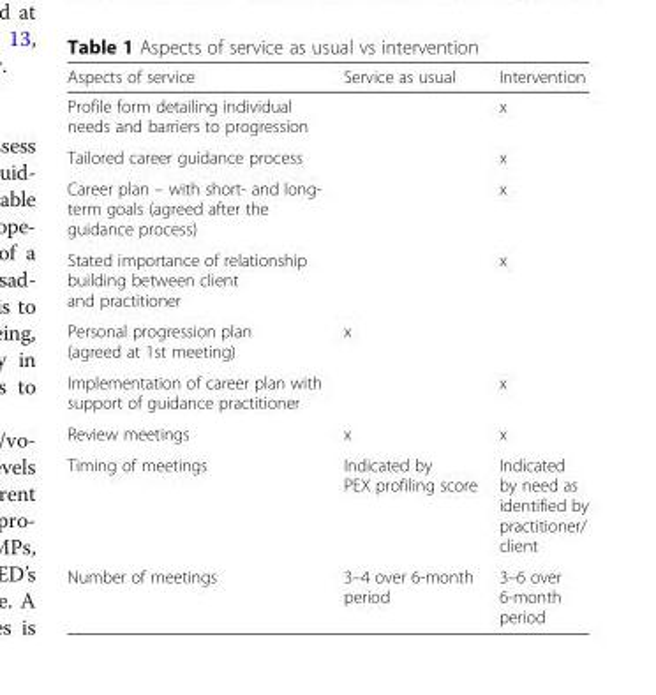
<table><thead><tr><td>Aspects of service</td><td>Service as usual</td><td>Intervention</td></tr></thead><tbody><tr><td>Profile form detailing individual needs and barriers to progression</td><td></td><td>x</td></tr><tr><td>Tailored career guidance process</td><td></td><td>x</td></tr><tr><td>Career plan – with short- and long- term goals (agreed after the guidance process)</td><td></td><td>x</td></tr><tr><td>Stated importance of relationship building between client and practitioner</td><td></td><td>x</td></tr><tr><td>Personal progression plan (agreed at 1st meeting)</td><td>x</td><td></td></tr><tr><td>Implementation of career plan with support of guidance practitioner</td><td></td><td>x</td></tr><tr><td>Review meetings</td><td>x</td><td>x</td></tr><tr><td>Timing of meetings</td><td>Indicated by PEX profiling score</td><td>Indicated by need as identified by practitioner/ client</td></tr><tr><td>Number of meetings</td><td>3–4 over 6-month period</td><td>3–6 over 6-month period</td></tr></tbody></table>